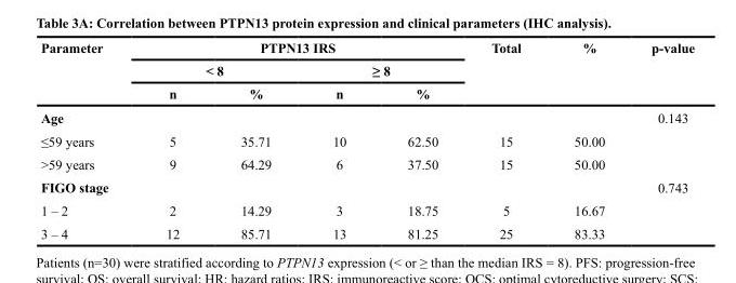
<table><thead><tr><td rowspan="3">Parameter</td><td colspan="4">PTPN13 IRS</td><td rowspan="3">Total</td><td rowspan="3">%</td><td rowspan="3">p-value</td></tr><tr><td colspan="2">&lt; 8</td><td colspan="2">≥ 8</td></tr><tr><td>n</td><td>%</td><td>n</td><td>%</td></tr></thead><tbody><tr><td>Age</td><td></td><td></td><td></td><td></td><td></td><td></td><td>0.143</td></tr><tr><td>≤59 years</td><td>5</td><td>35.71</td><td>10</td><td>62.50</td><td>15</td><td>50.00</td><td></td></tr><tr><td>&gt;59 years</td><td>9</td><td>64.29</td><td>6</td><td>37.50</td><td>15</td><td>50.00</td><td></td></tr><tr><td>FIGO stage</td><td></td><td></td><td></td><td></td><td></td><td></td><td>0.743</td></tr><tr><td>1 – 2</td><td>2</td><td>14.29</td><td>3</td><td>18.75</td><td>5</td><td>16.67</td><td></td></tr><tr><td>3 – 4</td><td>12</td><td>85.71</td><td>13</td><td>81.25</td><td>25</td><td>83.33</td><td></td></tr></tbody></table>